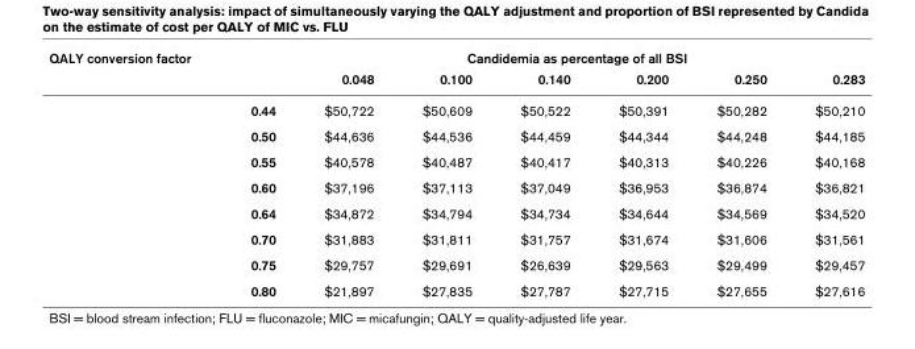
<table><thead><tr><td rowspan="2">QALY conversion factor</td><td colspan="6">Candidemia as percentage of all BSI</td></tr><tr><td>0.048</td><td>0.100</td><td>0.140</td><td>0.200</td><td>0.250</td><td>0.283</td></tr></thead><tbody><tr><td>0.44</td><td>$50,722</td><td>$50,609</td><td>$50,522</td><td>$50,391</td><td>$50,282</td><td>$50,210</td></tr><tr><td>0.50</td><td>$44,636</td><td>$44,536</td><td>$44,459</td><td>$44,344</td><td>$44,248</td><td>$44,185</td></tr><tr><td>0.55</td><td>$40,578</td><td>$40,487</td><td>$40,417</td><td>$40,313</td><td>$40,226</td><td>$40,168</td></tr><tr><td>0.60</td><td>$37,196</td><td>$37,113</td><td>$37,049</td><td>$36,953</td><td>$36,874</td><td>$36,821</td></tr><tr><td>0.64</td><td>$34,872</td><td>$34,794</td><td>$34,734</td><td>$34,644</td><td>$34,569</td><td>$34,520</td></tr><tr><td>0.70</td><td>$31,883</td><td>$31,811</td><td>$31,757</td><td>$31,674</td><td>$31,606</td><td>$31,561</td></tr><tr><td>0.75</td><td>$29,757</td><td>$29,691</td><td>$26,639</td><td>$29,563</td><td>$29,499</td><td>$29,457</td></tr><tr><td>0.80</td><td>$21,897</td><td>$27,835</td><td>$27,787</td><td>$27,715</td><td>$27,655</td><td>$27,616</td></tr></tbody></table>